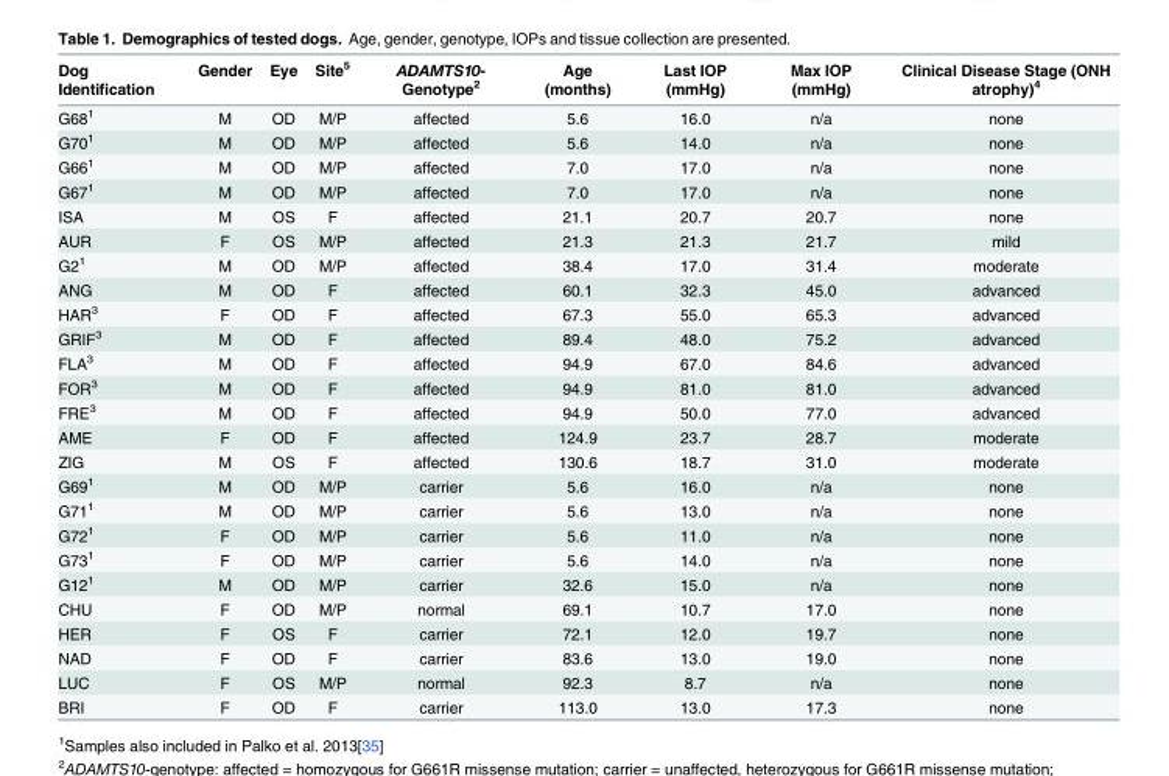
<table><thead><tr><td>Dog Identification</td><td>Gender</td><td>Eye</td><td>Site<sup>5</sup></td><td>ADAMTS10- Genotype<sup>2</sup></td><td>Age (months)</td><td>Last IOP (mmHg)</td><td>Max IOP (mmHg)</td><td>Clinical Disease Stage (ONH atrophy)<sup>4</sup></td></tr></thead><tbody><tr><td>G68<sup>1</sup></td><td>M</td><td>OD</td><td>M/P</td><td>affected</td><td>5.6</td><td>16.0</td><td>n/a</td><td>none</td></tr><tr><td>G70<sup>1</sup></td><td>M</td><td>OD</td><td>M/P</td><td>affected</td><td>5.6</td><td>14.0</td><td>n/a</td><td>none</td></tr><tr><td>G66<sup>1</sup></td><td>M</td><td>OD</td><td>M/P</td><td>affected</td><td>7.0</td><td>17.0</td><td>n/a</td><td>none</td></tr><tr><td>G67<sup>1</sup></td><td>M</td><td>OD</td><td>M/P</td><td>affected</td><td>7.0</td><td>17.0</td><td>n/a</td><td>none</td></tr><tr><td>ISA</td><td>M</td><td>OS</td><td>F</td><td>affected</td><td>21.1</td><td>20.7</td><td>20.7</td><td>none</td></tr><tr><td>AUR</td><td>F</td><td>OS</td><td>M/P</td><td>affected</td><td>21.3</td><td>21.3</td><td>21.7</td><td>mild</td></tr><tr><td>G2<sup>1</sup></td><td>M</td><td>OD</td><td>M/P</td><td>affected</td><td>38.4</td><td>17.0</td><td>31.4</td><td>moderate</td></tr><tr><td>ANG</td><td>M</td><td>OD</td><td>F</td><td>affected</td><td>60.1</td><td>32.3</td><td>45.0</td><td>advanced</td></tr><tr><td>HAR<sup>3</sup></td><td>F</td><td>OD</td><td>F</td><td>affected</td><td>67.3</td><td>55.0</td><td>65.3</td><td>advanced</td></tr><tr><td>GRIF<sup>3</sup></td><td>M</td><td>OD</td><td>F</td><td>affected</td><td>89.4</td><td>48.0</td><td>75.2</td><td>advanced</td></tr><tr><td>FLA<sup>3</sup></td><td>M</td><td>OD</td><td>F</td><td>affected</td><td>94.9</td><td>67.0</td><td>84.6</td><td>advanced</td></tr><tr><td>FOR<sup>3</sup></td><td>M</td><td>OD</td><td>F</td><td>affected</td><td>94.9</td><td>81.0</td><td>81.0</td><td>advanced</td></tr><tr><td>FRE<sup>3</sup></td><td>M</td><td>OD</td><td>F</td><td>affected</td><td>94.9</td><td>50.0</td><td>77.0</td><td>advanced</td></tr><tr><td>AME</td><td>F</td><td>OD</td><td>F</td><td>affected</td><td>124.9</td><td>23.7</td><td>28.7</td><td>moderate</td></tr><tr><td>ZIG</td><td>M</td><td>OS</td><td>F</td><td>affected</td><td>130.6</td><td>18.7</td><td>31.0</td><td>moderate</td></tr><tr><td>G69<sup>1</sup></td><td>M</td><td>OD</td><td>M/P</td><td>carrier</td><td>5.6</td><td>16.0</td><td>n/a</td><td>none</td></tr><tr><td>G71<sup>1</sup></td><td>M</td><td>OD</td><td>M/P</td><td>carrier</td><td>5.6</td><td>13.0</td><td>n/a</td><td>none</td></tr><tr><td>G72<sup>1</sup></td><td>F</td><td>OD</td><td>M/P</td><td>carrier</td><td>5.6</td><td>11.0</td><td>n/a</td><td>none</td></tr><tr><td>G73<sup>1</sup></td><td>F</td><td>OD</td><td>M/P</td><td>carrier</td><td>5.6</td><td>14.0</td><td>n/a</td><td>none</td></tr><tr><td>G12<sup>1</sup></td><td>M</td><td>OD</td><td>M/P</td><td>carrier</td><td>32.6</td><td>15.0</td><td>n/a</td><td>none</td></tr><tr><td>CHU</td><td>F</td><td>OD</td><td>M/P</td><td>normal</td><td>69.1</td><td>10.7</td><td>17.0</td><td>none</td></tr><tr><td>HER</td><td>F</td><td>OS</td><td>F</td><td>carrier</td><td>72.1</td><td>12.0</td><td>19.7</td><td>none</td></tr><tr><td>NAD</td><td>F</td><td>OD</td><td>F</td><td>carrier</td><td>83.6</td><td>13.0</td><td>19.0</td><td>none</td></tr><tr><td>LUC</td><td>F</td><td>OS</td><td>M/P</td><td>normal</td><td>92.3</td><td>8.7</td><td>n/a</td><td>none</td></tr><tr><td>BRI</td><td>F</td><td>OD</td><td>F</td><td>carrier</td><td>113.0</td><td>13.0</td><td>17.3</td><td>none</td></tr></tbody></table>